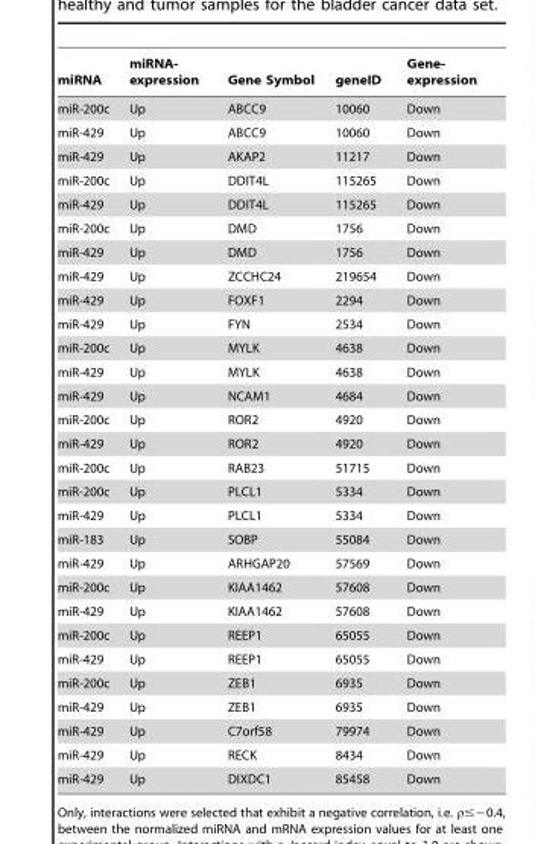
<table><thead><tr><td>miRNA</td><td>miRNA- expression</td><td>Gene Symbol</td><td>geneID</td><td>Gene- expression</td></tr></thead><tbody><tr><td>miR-200c</td><td>Up</td><td>ABCC9</td><td>10060</td><td>Down</td></tr><tr><td>miR-429</td><td>Up</td><td>ABCC9</td><td>10060</td><td>Down</td></tr><tr><td>miR-429</td><td>Up</td><td>AKAP2</td><td>11217</td><td>Down</td></tr><tr><td>miR-200c</td><td>Up</td><td>DDIT4L</td><td>115265</td><td>Down</td></tr><tr><td>miR-429</td><td>Up</td><td>DDIT4L</td><td>115265</td><td>Down</td></tr><tr><td>miR-200c</td><td>Up</td><td>DMD</td><td>1756</td><td>Down</td></tr><tr><td>miR-429</td><td>Up</td><td>DMD</td><td>1756</td><td>Down</td></tr><tr><td>miR-429</td><td>Up</td><td>ZCCHC24</td><td>219654</td><td>Down</td></tr><tr><td>miR-429</td><td>Up</td><td>FOXF1</td><td>2294</td><td>Down</td></tr><tr><td>miR-429</td><td>Up</td><td>FYN</td><td>2534</td><td>Down</td></tr><tr><td>miR-200c</td><td>Up</td><td>MYLK</td><td>4638</td><td>Down</td></tr><tr><td>miR-429</td><td>Up</td><td>MYLK</td><td>4638</td><td>Down</td></tr><tr><td>miR-429</td><td>Up</td><td>NCAM1</td><td>4684</td><td>Down</td></tr><tr><td>miR-200c</td><td>Up</td><td>ROR2</td><td>4920</td><td>Down</td></tr><tr><td>miR-429</td><td>Up</td><td>ROR2</td><td>4920</td><td>Down</td></tr><tr><td>miR-200c</td><td>Up</td><td>RAB23</td><td>51715</td><td>Down</td></tr><tr><td>miR-200c</td><td>Up</td><td>PLCL1</td><td>5334</td><td>Down</td></tr><tr><td>miR-429</td><td>Up</td><td>PLCL1</td><td>5334</td><td>Down</td></tr><tr><td>miR-183</td><td>Up</td><td>SOBP</td><td>55084</td><td>Down</td></tr><tr><td>miR-429</td><td>Up</td><td>ARHGAP20</td><td>57569</td><td>Down</td></tr><tr><td>miR-200c</td><td>Up</td><td>KIAA1462</td><td>57608</td><td>Down</td></tr><tr><td>miR-429</td><td>Up</td><td>KIAA1462</td><td>57608</td><td>Down</td></tr><tr><td>miR-200c</td><td>Up</td><td>REEP1</td><td>65055</td><td>Down</td></tr><tr><td>miR-429</td><td>Up</td><td>REEP1</td><td>65055</td><td>Down</td></tr><tr><td>miR-200c</td><td>Up</td><td>ZEB1</td><td>6935</td><td>Down</td></tr><tr><td>miR-429</td><td>Up</td><td>ZEB1</td><td>6935</td><td>Down</td></tr><tr><td>miR-429</td><td>Up</td><td>C7orf58</td><td>79974</td><td>Down</td></tr><tr><td>miR-429</td><td>Up</td><td>RECK</td><td>8434</td><td>Down</td></tr><tr><td>miR-429</td><td>Up</td><td>DIXDC1</td><td>85458</td><td>Down</td></tr></tbody></table>